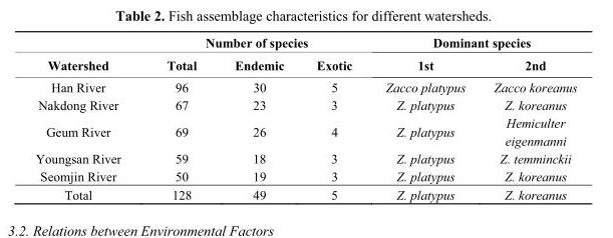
<table><thead><tr><td rowspan="2">Watershed</td><td colspan="3">Number of species</td><td colspan="2">Dominant species</td></tr><tr><td>Total</td><td>Endemic</td><td>Exotic</td><td>1st</td><td>2nd</td></tr></thead><tbody><tr><td>Han River</td><td>96</td><td>30</td><td>5</td><td>Zacco platypus</td><td>Zacco koreanus</td></tr><tr><td>Nakdong River</td><td>67</td><td>23</td><td>3</td><td>Z. platypus</td><td>Z. koreanus</td></tr><tr><td>Geum River</td><td>69</td><td>26</td><td>4</td><td>Z. platypus</td><td>Hemiculter eigenmanni</td></tr><tr><td>Youngsan River</td><td>59</td><td>18</td><td>3</td><td>Z. platypus</td><td>Z. temminckii</td></tr><tr><td>Seomjin River</td><td>50</td><td>19</td><td>3</td><td>Z. platypus</td><td>Z. koreanus</td></tr><tr><td>Total</td><td>128</td><td>49</td><td>5</td><td>Z. platypus</td><td>Z. koreanus</td></tr></tbody></table>